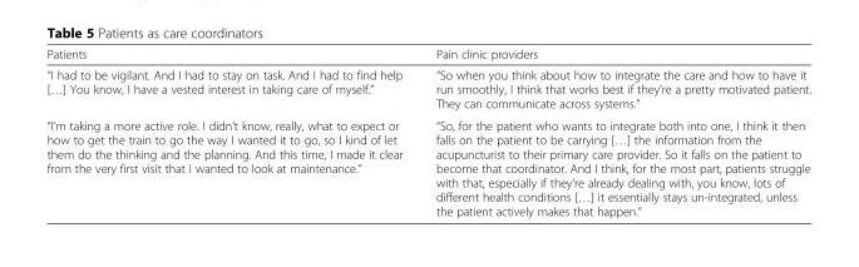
<table><thead><tr><td>Patients</td><td>Pain clinic providers</td></tr></thead><tbody><tr><td>“I had to be vigilant. And I had to stay on task. And I had to find help […] You know, I have a vested interest in taking care of myself.”</td><td>“So when you think about how to integrate the care and how to have it run smoothly, I think that works best if they’re a pretty motivated patient. They can communicate across systems.”</td></tr><tr><td>“I’m taking a more active role. I didn’t know, really, what to expect or how to get the train to go the way I wanted it to go, so I kind of let them do the thinking and the planning. And this time, I made it clear from the very first visit that I wanted to look at maintenance.”</td><td>“So, for the patient who wants to integrate both into one, I think it then falls on the patient to be carrying […] the information from the acupuncturist to their primary care provider. So it falls on the patient to become that coordinator. And I think, for the most part, patients struggle with that, especially if they’re already dealing with, you know, lots of different health conditions […] it essentially stays un-integrated, unless the patient actively makes that happen.”</td></tr></tbody></table>